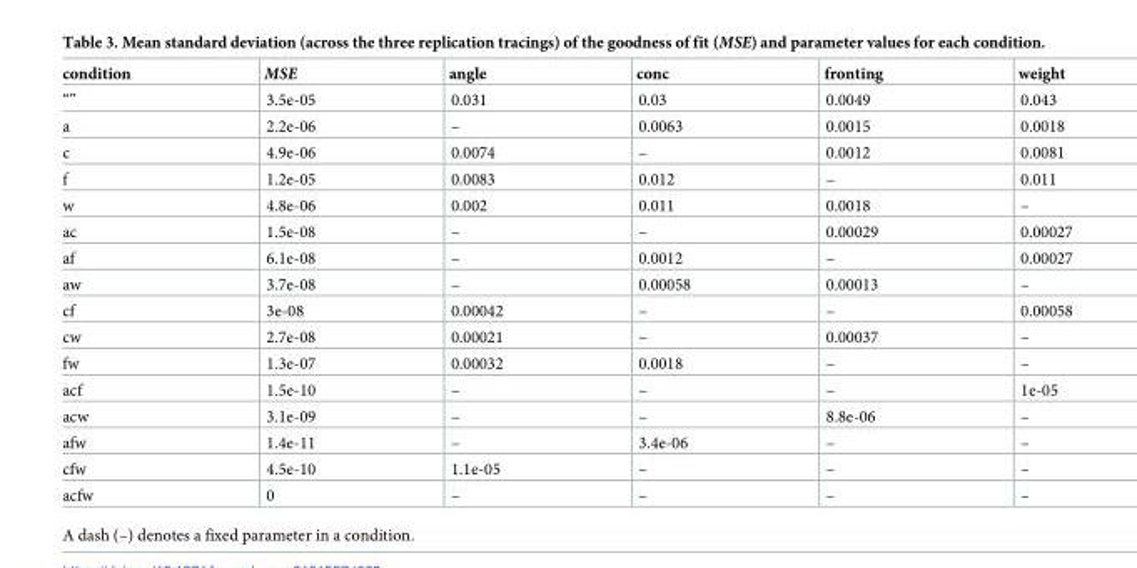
<table><thead><tr><td>condition</td><td>MSE</td><td>angle</td><td>conc</td><td>fronting</td><td>weight</td></tr></thead><tbody><tr><td>“”</td><td>3.5e-05</td><td>0.031</td><td>0.03</td><td>0.0049</td><td>0.043</td></tr><tr><td>a</td><td>2.2e-06</td><td>–</td><td>0.0063</td><td>0.0015</td><td>0.0018</td></tr><tr><td>c</td><td>4.9e-06</td><td>0.0074</td><td>–</td><td>0.0012</td><td>0.0081</td></tr><tr><td>f</td><td>1.2e-05</td><td>0.0083</td><td>0.012</td><td>–</td><td>0.011</td></tr><tr><td>w</td><td>4.8e-06</td><td>0.002</td><td>0.011</td><td>0.0018</td><td>–</td></tr><tr><td>ac</td><td>1.5e-08</td><td>–</td><td>–</td><td>0.00029</td><td>0.00027</td></tr><tr><td>af</td><td>6.1e-08</td><td>–</td><td>0.0012</td><td>–</td><td>0.00027</td></tr><tr><td>aw</td><td>3.7e-08</td><td>–</td><td>0.00058</td><td>0.00013</td><td>–</td></tr><tr><td>cf</td><td>3e-08</td><td>0.00042</td><td>–</td><td>–</td><td>0.00058</td></tr><tr><td>cw</td><td>2.7e-08</td><td>0.00021</td><td>–</td><td>0.00037</td><td>–</td></tr><tr><td>fw</td><td>1.3e-07</td><td>0.00032</td><td>0.0018</td><td>–</td><td>–</td></tr><tr><td>acf</td><td>1.5e-10</td><td>–</td><td>–</td><td>–</td><td>1e-05</td></tr><tr><td>acw</td><td>3.1e-09</td><td>–</td><td>–</td><td>8.8e-06</td><td>–</td></tr><tr><td>afw</td><td>1.4e-11</td><td>–</td><td>3.4e-06</td><td>–</td><td>–</td></tr><tr><td>cfw</td><td>4.5e-10</td><td>1.1e-05</td><td>–</td><td>–</td><td>–</td></tr><tr><td>acfw</td><td>0</td><td>–</td><td>–</td><td>–</td><td>–</td></tr></tbody></table>